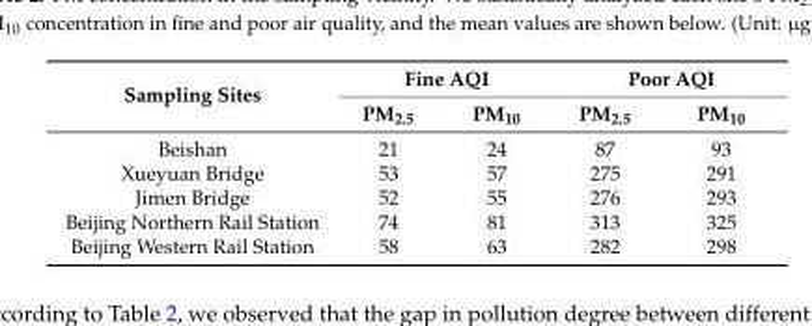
<table><thead><tr><td rowspan="2">Sampling Sites</td><td colspan="2">Fine AQI</td><td colspan="2">Poor AQI</td></tr><tr><td>PM<sub>2.5</sub></td><td>PM<sub>10</sub></td><td>PM<sub>2.5</sub></td><td>PM<sub>10</sub></td></tr></thead><tbody><tr><td>Beishan</td><td>21</td><td>24</td><td>87</td><td>93</td></tr><tr><td>Xueyuan Bridge</td><td>53</td><td>57</td><td>275</td><td>291</td></tr><tr><td>Jimen Bridge</td><td>52</td><td>55</td><td>276</td><td>293</td></tr><tr><td>Beijing Northern Rail Station</td><td>74</td><td>81</td><td>313</td><td>325</td></tr><tr><td>Beijing Western Rail Station</td><td>58</td><td>63</td><td>282</td><td>298</td></tr></tbody></table>